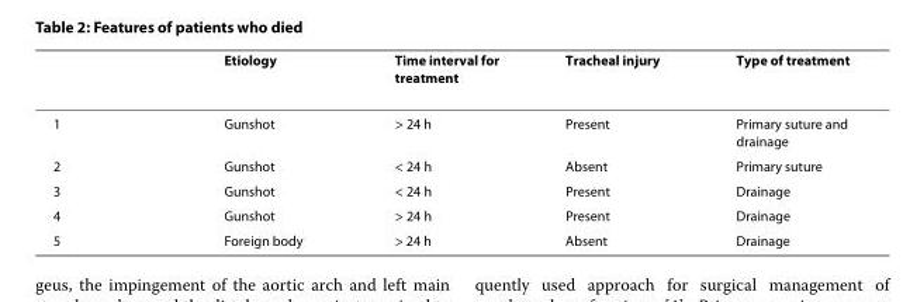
<table><thead><tr><td></td><td>Etiology</td><td>Time interval for treatment</td><td>Tracheal injury</td><td>Type of treatment</td></tr></thead><tbody><tr><td>1</td><td>Gunshot</td><td>&gt; 24 h</td><td>Present</td><td>Primary suture and drainage</td></tr><tr><td>2</td><td>Gunshot</td><td>&lt; 24 h</td><td>Absent</td><td>Primary suture</td></tr><tr><td>3</td><td>Gunshot</td><td>&lt; 24 h</td><td>Present</td><td>Drainage</td></tr><tr><td>4</td><td>Gunshot</td><td>&gt; 24 h</td><td>Present</td><td>Drainage</td></tr><tr><td>5</td><td>Foreign body</td><td>&gt; 24 h</td><td>Absent</td><td>Drainage</td></tr></tbody></table>